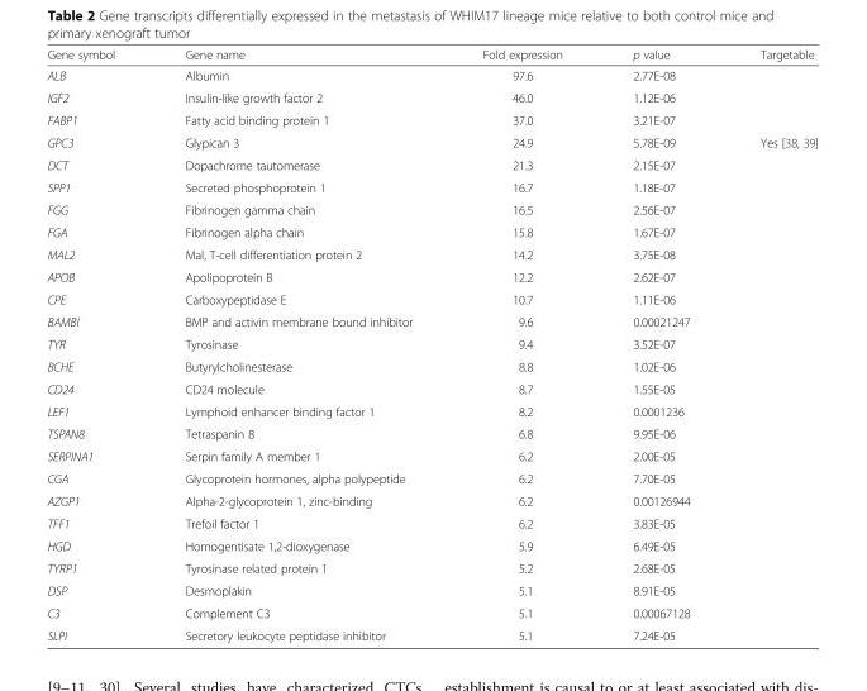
<table><thead><tr><td>Gene symbol</td><td>Gene name</td><td>Fold expression</td><td>p value</td><td>Targetable</td></tr></thead><tbody><tr><td>ALB</td><td>Albumin</td><td>97.6</td><td>2.77E-08</td><td></td></tr><tr><td>IGF2</td><td>Insulin-like growth factor 2</td><td>46.0</td><td>1.12E-06</td><td></td></tr><tr><td>FABP1</td><td>Fatty acid binding protein 1</td><td>37.0</td><td>3.21E-07</td><td></td></tr><tr><td>GPC3</td><td>Glypican 3</td><td>24.9</td><td>5.78E-09</td><td>Yes [38, 39]</td></tr><tr><td>DCT</td><td>Dopachrome tautomerase</td><td>21.3</td><td>2.15E-07</td><td></td></tr><tr><td>SPP1</td><td>Secreted phosphoprotein 1</td><td>16.7</td><td>1.18E-07</td><td></td></tr><tr><td>FGG</td><td>Fibrinogen gamma chain</td><td>16.5</td><td>2.56E-07</td><td></td></tr><tr><td>FGA</td><td>Fibrinogen alpha chain</td><td>15.8</td><td>1.67E-07</td><td></td></tr><tr><td>MAL2</td><td>Mal, T-cell differentiation protein 2</td><td>14.2</td><td>3.75E-08</td><td></td></tr><tr><td>APOB</td><td>Apolipoprotein B</td><td>12.2</td><td>2.62E-07</td><td></td></tr><tr><td>CPE</td><td>Carboxypeptidase E</td><td>10.7</td><td>1.11E-06</td><td></td></tr><tr><td>BAMBI</td><td>BMP and activin membrane bound inhibitor</td><td>9.6</td><td>0.00021247</td><td></td></tr><tr><td>TYR</td><td>Tyrosinase</td><td>9.4</td><td>3.52E-07</td><td></td></tr><tr><td>BCHE</td><td>Butyrylcholinesterase</td><td>8.8</td><td>1.02E-06</td><td></td></tr><tr><td>CD24</td><td>CD24 molecule</td><td>8.7</td><td>1.55E-05</td><td></td></tr><tr><td>LEF1</td><td>Lymphoid enhancer binding factor 1</td><td>8.2</td><td>0.0001236</td><td></td></tr><tr><td>TSPAN8</td><td>Tetraspanin 8</td><td>6.8</td><td>9.95E-06</td><td></td></tr><tr><td>SERPINA1</td><td>Serpin family A member 1</td><td>6.2</td><td>2.00E-05</td><td></td></tr><tr><td>CGA</td><td>Glycoprotein hormones, alpha polypeptide</td><td>6.2</td><td>7.70E-05</td><td></td></tr><tr><td>AZGP1</td><td>Alpha-2-glycoprotein 1, zinc-binding</td><td>6.2</td><td>0.00126944</td><td></td></tr><tr><td>TFF1</td><td>Trefoil factor 1</td><td>6.2</td><td>3.83E-05</td><td></td></tr><tr><td>HGD</td><td>Homogentisate 1,2-dioxygenase</td><td>5.9</td><td>6.49E-05</td><td></td></tr><tr><td>TYRP1</td><td>Tyrosinase related protein 1</td><td>5.2</td><td>2.68E-05</td><td></td></tr><tr><td>DSP</td><td>Desmoplakin</td><td>5.1</td><td>8.91E-05</td><td></td></tr><tr><td>C3</td><td>Complement C3</td><td>5.1</td><td>0.00067128</td><td></td></tr><tr><td>SLPI</td><td>Secretory leukocyte peptidase inhibitor</td><td>5.1</td><td>7.24E-05</td><td></td></tr></tbody></table>